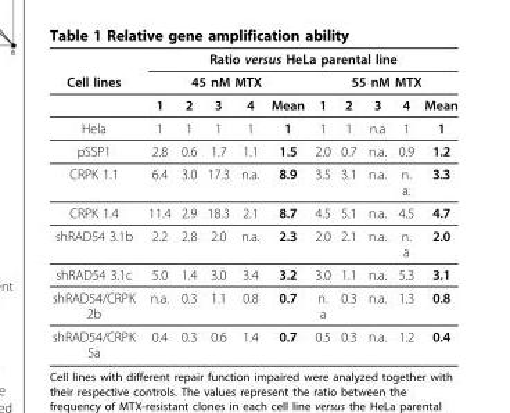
<table><thead><tr><td rowspan="3">Cell lines</td><td colspan="10">Ratio versus HeLa parental line</td></tr><tr><td colspan="5">45 nM MTX</td><td colspan="5">55 nM MTX</td></tr><tr><td>1</td><td>2</td><td>3</td><td>4</td><td>Mean</td><td>1</td><td>2</td><td>3</td><td>4</td><td>Mean</td></tr></thead><tbody><tr><td>Hela</td><td>1</td><td>1</td><td>1</td><td>1</td><td>1</td><td>1</td><td>1</td><td>n.a</td><td>1</td><td>1</td></tr><tr><td>pSSP1</td><td>2.8</td><td>0.6</td><td>1.7</td><td>1.1</td><td>1.5</td><td>2.0</td><td>0.7</td><td>n.a.</td><td>0.9</td><td>1.2</td></tr><tr><td>CRPK 1.1</td><td>6.4</td><td>3.0</td><td>17.3</td><td>n.a.</td><td>8.9</td><td>3.5</td><td>3.1</td><td>n.a.</td><td>n. a.</td><td>3.3</td></tr><tr><td>CRPK 1.4</td><td>11.4</td><td>2.9</td><td>18.3</td><td>2.1</td><td>8.7</td><td>4.5</td><td>5.1</td><td>n.a.</td><td>4.5</td><td>4.7</td></tr><tr><td>shRAD54 3.1b</td><td>2.2</td><td>2.8</td><td>2.0</td><td>n.a.</td><td>2.3</td><td>2.0</td><td>2.1</td><td>n.a.</td><td>n. a</td><td>2.0</td></tr><tr><td>shRAD54 3.1c</td><td>5.0</td><td>1.4</td><td>3.0</td><td>3.4</td><td>3.2</td><td>3.0</td><td>1.1</td><td>n.a.</td><td>5.3</td><td>3.1</td></tr><tr><td>shRAD54/CRPK 2b</td><td>n.a.</td><td>0.3</td><td>1.1</td><td>0.8</td><td>0.7</td><td>n. a</td><td>0.3</td><td>n.a.</td><td>1.3</td><td>0.8</td></tr><tr><td>shRAD54/CRPK 5a</td><td>0.4</td><td>0.3</td><td>0.6</td><td>1.4</td><td>0.7</td><td>0.5</td><td>0.3</td><td>n.a.</td><td>1.2</td><td>0.4</td></tr></tbody></table>